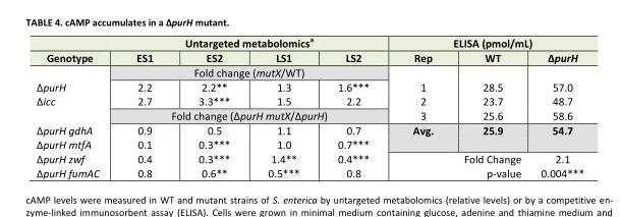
<table><thead><tr><td rowspan="2">Genotype</td><td colspan="4">Untargeted metabolomics<sup>a</sup></td><td colspan="3">ELISA (pmol/mL)</td></tr><tr><td>ES1</td><td>ES2</td><td>LS1</td><td>LS2</td><td>Rep</td><td>WT</td><td>ΔpurH</td></tr></thead><tbody><tr><td></td><td colspan="4">Fold change (mutX/WT)</td><td></td><td></td><td></td></tr><tr><td>ΔpurH</td><td>2.2</td><td>2.2**</td><td>1.3</td><td>1.6***</td><td>1</td><td>28.5</td><td>57.0</td></tr><tr><td rowspan="2">Δicc</td><td>2.7</td><td>3.3***</td><td>1.5</td><td>2.2</td><td>2</td><td>23.7</td><td>48.7</td></tr><tr><td colspan="4">Fold change (ΔpurH mutX/ΔpurH)</td><td>3</td><td>25.6</td><td>58.6</td></tr><tr><td>ΔpurH gdhA</td><td>0.9</td><td>0.5</td><td>1.1</td><td>0.7</td><td rowspan="2">Avg.</td><td rowspan="2">25.9</td><td rowspan="2">54.7</td></tr><tr><td>ΔpurH mtfA</td><td>0.1</td><td>0.3***</td><td>1.0</td><td>0.7***</td></tr><tr><td>ΔpurH zwf</td><td>0.4</td><td>0.3***</td><td>1.4**</td><td>0.4***</td><td colspan="2">Fold Change</td><td>2.1</td></tr><tr><td>ΔpurH fumAC</td><td>0.8</td><td>0.6**</td><td>0.5***</td><td>0.8</td><td colspan="2">p-value</td><td>0.004***</td></tr></tbody></table>